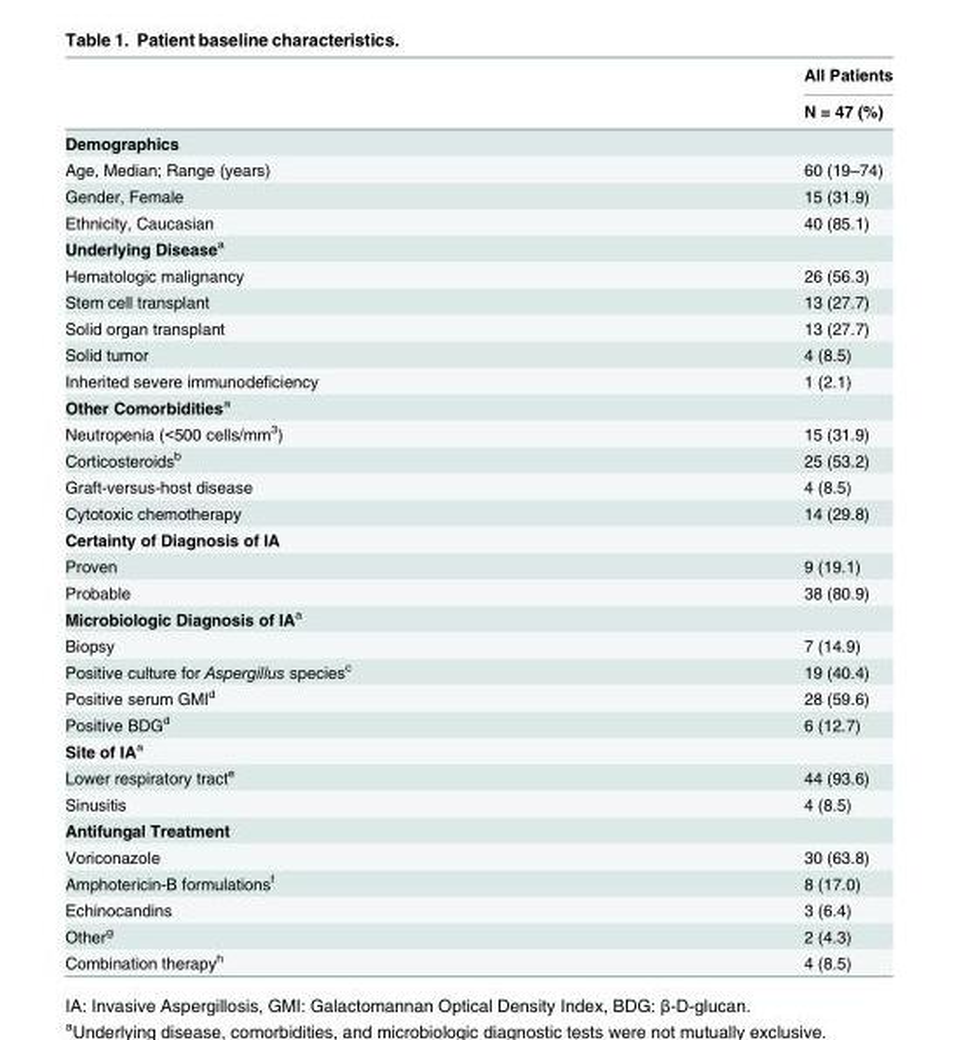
<table><thead><tr><td rowspan="2"></td><td rowspan="2">All Patients N = 47 (%)</td></tr><tr></tr></thead><tbody><tr><td colspan="2">Demographics</td></tr><tr><td>Age, Median; Range (years)</td><td>60 (19–74)</td></tr><tr><td>Gender, Female</td><td>15 (31.9)</td></tr><tr><td>Ethnicity, Caucasian</td><td>40 (85.1)</td></tr><tr><td colspan="2">Underlying Disease<sup>a</sup></td></tr><tr><td>Hematologic malignancy</td><td>26 (56.3)</td></tr><tr><td>Stem cell transplant</td><td>13 (27.7)</td></tr><tr><td>Solid organ transplant</td><td>13 (27.7)</td></tr><tr><td>Solid tumor</td><td>4 (8.5)</td></tr><tr><td>Inherited severe immunodeficiency</td><td>1 (2.1)</td></tr><tr><td colspan="2">Other Comorbidities<sup>a</sup></td></tr><tr><td>Neutropenia (&lt;500 cells/mm<sup>3</sup>)</td><td>15 (31.9)</td></tr><tr><td>Corticosteroids<sup>b</sup></td><td>25 (53.2)</td></tr><tr><td>Graft-versus-host disease</td><td>4 (8.5)</td></tr><tr><td>Cytotoxic chemotherapy</td><td>14 (29.8)</td></tr><tr><td colspan="2">Certainty of Diagnosis of IA</td></tr><tr><td>Proven</td><td>9 (19.1)</td></tr><tr><td>Probable</td><td>38 (80.9)</td></tr><tr><td colspan="2">Microbiologic Diagnosis of IA<sup>a</sup></td></tr><tr><td>Biopsy</td><td>7 (14.9)</td></tr><tr><td>Positive culture for Aspergillus species<sup>c</sup></td><td>19 (40.4)</td></tr><tr><td>Positive serum GMI<sup>d</sup></td><td>28 (59.6)</td></tr><tr><td>Positive BDG<sup>d</sup></td><td>6 (12.7)</td></tr><tr><td colspan="2">Site of IA<sup>a</sup></td></tr><tr><td>Lower respiratory tract<sup>e</sup></td><td>44 (93.6)</td></tr><tr><td>Sinusitis</td><td>4 (8.5)</td></tr><tr><td colspan="2">Antifungal Treatment</td></tr><tr><td>Voriconazole</td><td>30 (63.8)</td></tr><tr><td>Amphotericin-B formulations<sup>f</sup></td><td>8 (17.0)</td></tr><tr><td>Echinocandins</td><td>3 (6.4)</td></tr><tr><td>Other<sup>g</sup></td><td>2 (4.3)</td></tr><tr><td>Combination therapy<sup>h</sup></td><td>4 (8.5)</td></tr></tbody></table>